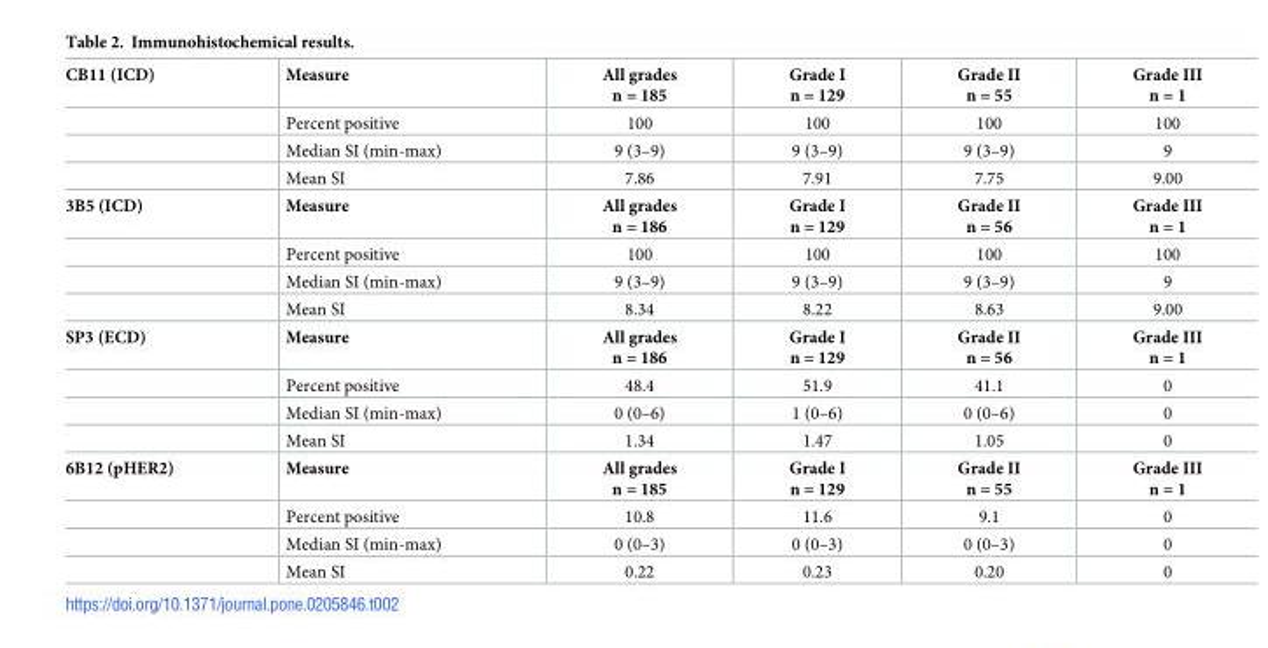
<table><tbody><tr><td rowspan="4">CB11 (ICD)</td><td>Measure</td><td>All grades n = 185</td><td>Grade I n = 129</td><td>Grade II n = 55</td><td>Grade III n = 1</td></tr><tr><td>Percent positive</td><td>100</td><td>100</td><td>100</td><td>100</td></tr><tr><td>Median SI (min-max)</td><td>9 (3–9)</td><td>9 (3–9)</td><td>9 (3–9)</td><td>9</td></tr><tr><td>Mean SI</td><td>7.86</td><td>7.91</td><td>7.75</td><td>9.00</td></tr><tr><td rowspan="4">3B5 (ICD)</td><td>Measure</td><td>All grades n = 186</td><td>Grade I n = 129</td><td>Grade II n = 56</td><td>Grade III n = 1</td></tr><tr><td>Percent positive</td><td>100</td><td>100</td><td>100</td><td>100</td></tr><tr><td>Median SI (min-max)</td><td>9 (3–9)</td><td>9 (3–9)</td><td>9 (3–9)</td><td>9</td></tr><tr><td>Mean SI</td><td>8.34</td><td>8.22</td><td>8.63</td><td>9.00</td></tr><tr><td rowspan="4">SP3 (ECD)</td><td>Measure</td><td>All grades n = 186</td><td>Grade I n = 129</td><td>Grade II n = 56</td><td>Grade III n = 1</td></tr><tr><td>Percent positive</td><td>48.4</td><td>51.9</td><td>41.1</td><td>0</td></tr><tr><td>Median SI (min-max)</td><td>0 (0–6)</td><td>1 (0–6)</td><td>0 (0–6)</td><td>0</td></tr><tr><td>Mean SI</td><td>1.34</td><td>1.47</td><td>1.05</td><td>0</td></tr><tr><td rowspan="4">6B12 (pHER2)</td><td>Measure</td><td>All grades n = 185</td><td>Grade I n = 129</td><td>Grade II n = 55</td><td>Grade III n = 1</td></tr><tr><td>Percent positive</td><td>10.8</td><td>11.6</td><td>9.1</td><td>0</td></tr><tr><td>Median SI (min-max)</td><td>0 (0–3)</td><td>0 (0–3)</td><td>0 (0–3)</td><td>0</td></tr><tr><td>Mean SI</td><td>0.22</td><td>0.23</td><td>0.20</td><td>0</td></tr></tbody></table>